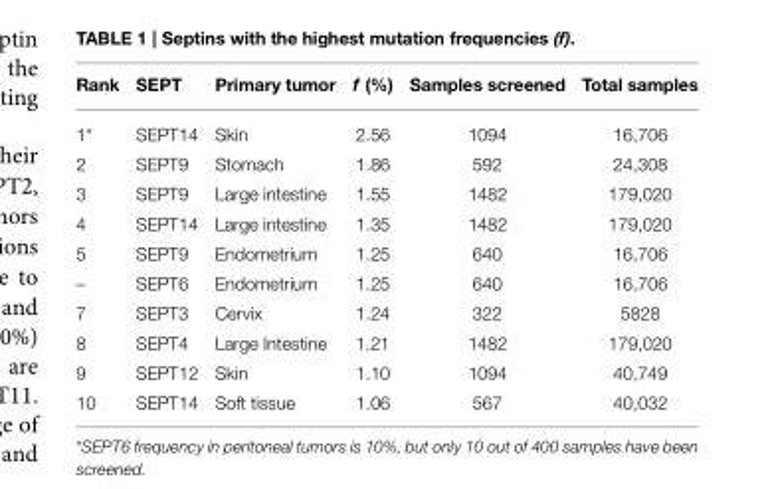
<table><thead><tr><td>Rank</td><td>SEPT</td><td>Primary tumor</td><td>f (%)</td><td>Samples screened</td><td>Total samples</td></tr></thead><tbody><tr><td>1*</td><td>SEPT14</td><td>Skin</td><td>2.56</td><td>1094</td><td>16,706</td></tr><tr><td>2</td><td>SEPT9</td><td>Stomach</td><td>1.86</td><td>592</td><td>24,308</td></tr><tr><td>3</td><td>SEPT9</td><td>Large intestine</td><td>1.55</td><td>1482</td><td>179,020</td></tr><tr><td>4</td><td>SEPT14</td><td>Large intestine</td><td>1.35</td><td>1482</td><td>179,020</td></tr><tr><td>5</td><td>SEPT9</td><td>Endometrium</td><td>1.25</td><td>640</td><td>16,706</td></tr><tr><td>–</td><td>SEPT6</td><td>Endometrium</td><td>1.25</td><td>640</td><td>16,706</td></tr><tr><td>7</td><td>SEPT3</td><td>Cervix</td><td>1.24</td><td>322</td><td>5828</td></tr><tr><td>8</td><td>SEPT4</td><td>Large Intestine</td><td>1.21</td><td>1482</td><td>179,020</td></tr><tr><td>9</td><td>SEPT12</td><td>Skin</td><td>1.10</td><td>1094</td><td>40,749</td></tr><tr><td>10</td><td>SEPT14</td><td>Soft tissue</td><td>1.06</td><td>567</td><td>40,032</td></tr></tbody></table>